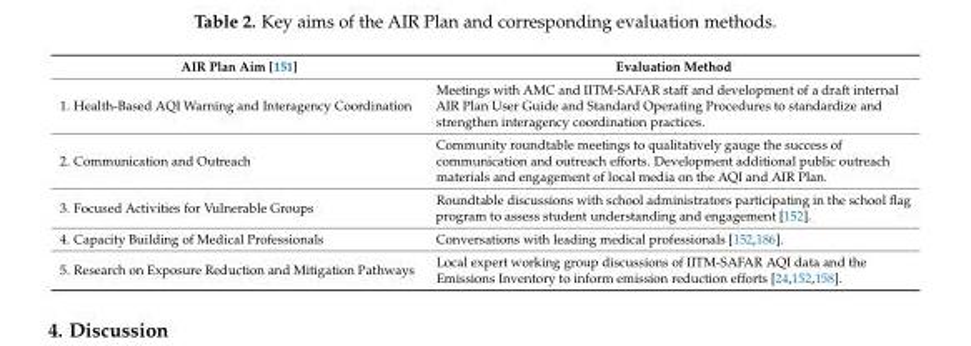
<table><thead><tr><td>AIR Plan Aim [151]</td><td>Evaluation Method</td></tr></thead><tbody><tr><td>1. Health-Based AQI Warning and Interagency Coordination</td><td>Meetings with AMC and IITM-SAFAR staff and development of a draft internal AIR Plan User Guide and Standard Operating Procedures to standardize and strengthen interagency coordination practices.</td></tr><tr><td>2. Communication and Outreach</td><td>Community roundtable meetings to qualitatively gauge the success of communication and outreach efforts. Development additional public outreach materials and engagement of local media on the AQI and AIR Plan.</td></tr><tr><td>3. Focused Activities for Vulnerable Groups</td><td>Roundtable discussions with school administrators participating in the school flag program to assess student understanding and engagement [152].</td></tr><tr><td>4. Capacity Building of Medical Professionals</td><td>Conversations with leading medical professionals [152,186].</td></tr><tr><td>5. Research on Exposure Reduction and Mitigation Pathways</td><td>Local expert working group discussions of IITM-SAFAR AQI data and the Emissions Inventory to inform emission reduction efforts [24,152,158].</td></tr></tbody></table>